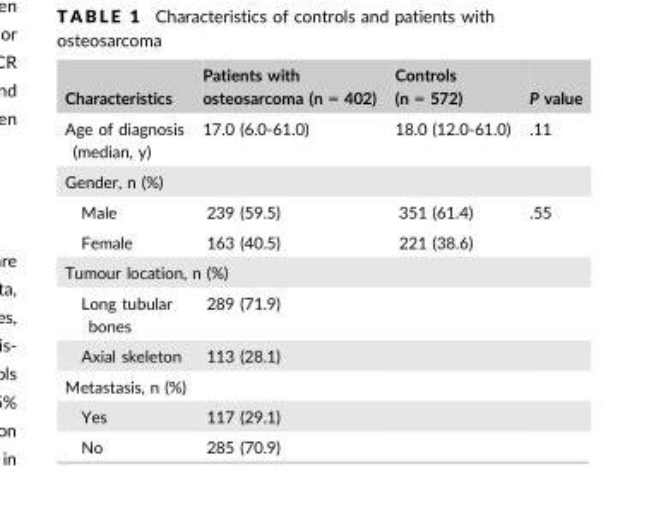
<table><thead><tr><td>Characteristics</td><td>Patients with osteosarcoma (n = 402)</td><td>Controls (n = 572)</td><td>P value</td></tr></thead><tbody><tr><td>Age of diagnosis (median, y)</td><td>17.0 (6.0-61.0)</td><td>18.0 (12.0-61.0)</td><td>.11</td></tr><tr><td colspan="4">Gender, n (%)</td></tr><tr><td>Male</td><td>239 (59.5)</td><td>351 (61.4)</td><td>.55</td></tr><tr><td>Female</td><td>163 (40.5)</td><td>221 (38.6)</td><td></td></tr><tr><td colspan="4">Tumour location, n (%)</td></tr><tr><td>Long tubular bones</td><td>289 (71.9)</td><td></td><td></td></tr><tr><td>Axial skeleton</td><td>113 (28.1)</td><td></td><td></td></tr><tr><td colspan="4">Metastasis, n (%)</td></tr><tr><td>Yes</td><td>117 (29.1)</td><td></td><td></td></tr><tr><td>No</td><td>285 (70.9)</td><td></td><td></td></tr></tbody></table>